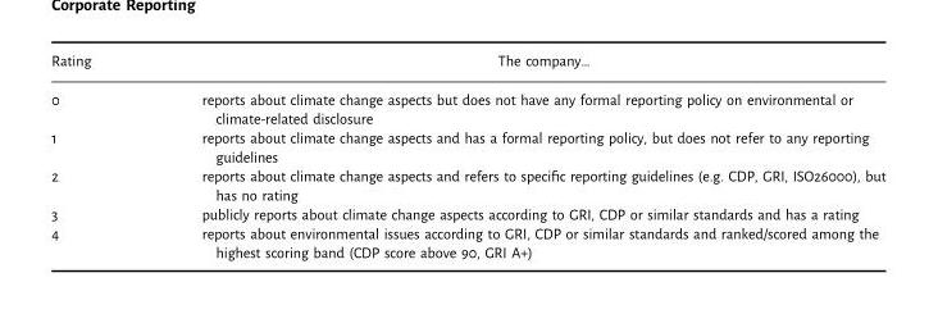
<table><thead><tr><td>Rating</td><td>The company…</td></tr></thead><tbody><tr><td>0</td><td>reports about climate change aspects but does not have any formal reporting policy on environmental or climate-related disclosure</td></tr><tr><td>1</td><td>reports about climate change aspects and has a formal reporting policy, but does not refer to any reporting guidelines</td></tr><tr><td>2</td><td>reports about climate change aspects and refers to specific reporting guidelines (e.g. CDP, GRI, ISO26000), but has no rating</td></tr><tr><td>3</td><td>publicly reports about climate change aspects according to GRI, CDP or similar standards and has a rating</td></tr><tr><td>4</td><td>reports about environmental issues according to GRI, CDP or similar standards and ranked/scored among the highest scoring band (CDP score above 90, GRI A+)</td></tr></tbody></table>